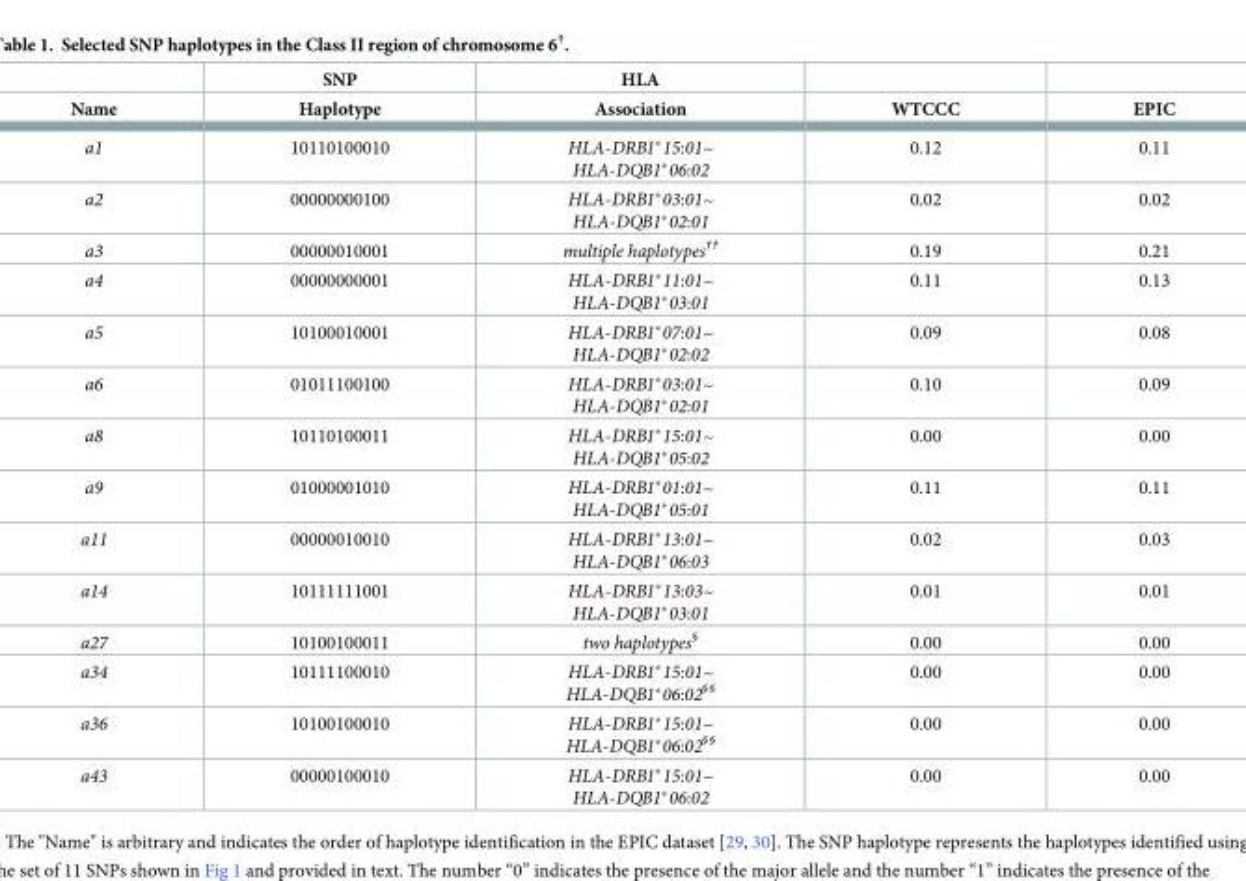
<table><thead><tr><td rowspan="2">Name</td><td rowspan="2">SNP Haplotype</td><td rowspan="2">HLA Association</td><td rowspan="2">WTCCC</td><td rowspan="2">EPIC</td></tr><tr></tr></thead><tbody><tr><td>a1</td><td>10110100010</td><td>HLA-DRB1*15:01~ HLA-DQB1*06:02</td><td>0.12</td><td>0.11</td></tr><tr><td>a2</td><td>00000000100</td><td>HLA-DRB1*03:01~ HLA-DQB1*02:01</td><td>0.02</td><td>0.02</td></tr><tr><td>a3</td><td>00000010001</td><td>multiple haplotypes<sup>††</sup></td><td>0.19</td><td>0.21</td></tr><tr><td>a4</td><td>00000000001</td><td>HLA-DRB1*11:01~ HLA-DQB1*03:01</td><td>0.11</td><td>0.13</td></tr><tr><td>a5</td><td>10100010001</td><td>HLA-DRB1*07:01~ HLA-DQB1*02:02</td><td>0.09</td><td>0.08</td></tr><tr><td>a6</td><td>01011100100</td><td>HLA-DRB1*03:01~ HLA-DQB1*02:01</td><td>0.10</td><td>0.09</td></tr><tr><td>a8</td><td>10110100011</td><td>HLA-DRB1*15:01~ HLA-DQB1*05:02</td><td>0.00</td><td>0.00</td></tr><tr><td>a9</td><td>01000001010</td><td>HLA-DRB1*01:01~ HLA-DQB1*05:01</td><td>0.11</td><td>0.11</td></tr><tr><td>a11</td><td>00000010010</td><td>HLA-DRB1*13:01~ HLA-DQB1*06:03</td><td>0.02</td><td>0.03</td></tr><tr><td>a14</td><td>10111111001</td><td>HLA-DRB1*13:03~ HLA-DQB1*03:01</td><td>0.01</td><td>0.01</td></tr><tr><td>a27</td><td>10100100011</td><td>two haplotypes<sup>§</sup></td><td>0.00</td><td>0.00</td></tr><tr><td>a34</td><td>10111100010</td><td>HLA-DRB1*15:01~ HLA-DQB1*06:02<sup>§§</sup></td><td>0.00</td><td>0.00</td></tr><tr><td>a36</td><td>10100100010</td><td>HLA-DRB1*15:01~ HLA-DQB1*06:02<sup>§§</sup></td><td>0.00</td><td>0.00</td></tr><tr><td>a43</td><td>00000100010</td><td>HLA-DRB1*15:01~ HLA-DQB1*06:02</td><td>0.00</td><td>0.00</td></tr></tbody></table>